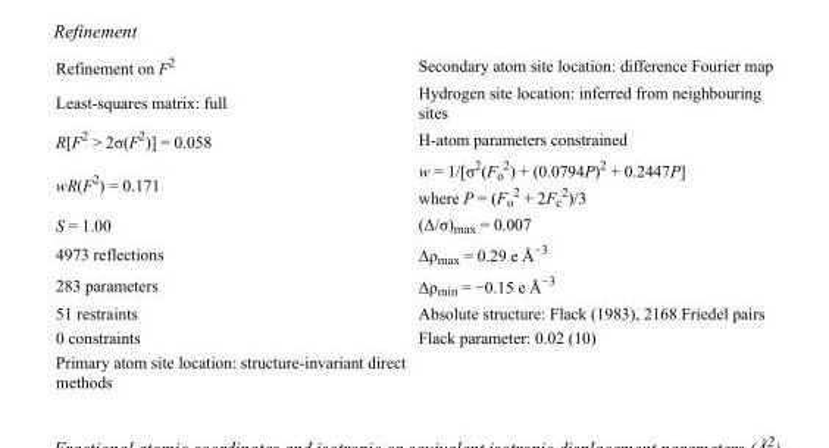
<table><tbody><tr><td>Refinement on F<sup>2</sup></td><td>Secondary atom site location: difference Fourier map</td></tr><tr><td>Least-squares matrix: full</td><td>Hydrogen site location: inferred from neighbouring sites</td></tr><tr><td>R[F<sup>2</sup> &gt; 2σ(F<sup>2</sup>)] = 0.058</td><td>H-atom parameters constrained</td></tr><tr><td>wR(F<sup>2</sup>) = 0.171</td><td>w = 1/[σ<sup>2</sup>(F<sub>o</sub> <sup>2</sup>) + (0.0794P)<sup>2</sup> + 0.2447P] where P = (F<sub>o</sub> <sup>2</sup> + 2F<sub>c</sub> <sup>2</sup>)/3</td></tr><tr><td>S = 1.00</td><td>(Δ/σ)<sub>max</sub> = 0.007</td></tr><tr><td>4973 reflections</td><td>Δρ<sub>max</sub> = 0.29 e Å<sup>−3</sup></td></tr><tr><td>283 parameters</td><td>Δρ<sub>min</sub> = −0.15 e Å<sup>−3</sup></td></tr><tr><td>51 restraints</td><td>Absolute structure: Flack (1983), 2168 Friedel pairs</td></tr><tr><td>0 constraints</td><td>Flack parameter: 0.02 (10)</td></tr><tr><td>Primary atom site location: structure-invariant direct methods</td><td></td></tr></tbody></table>